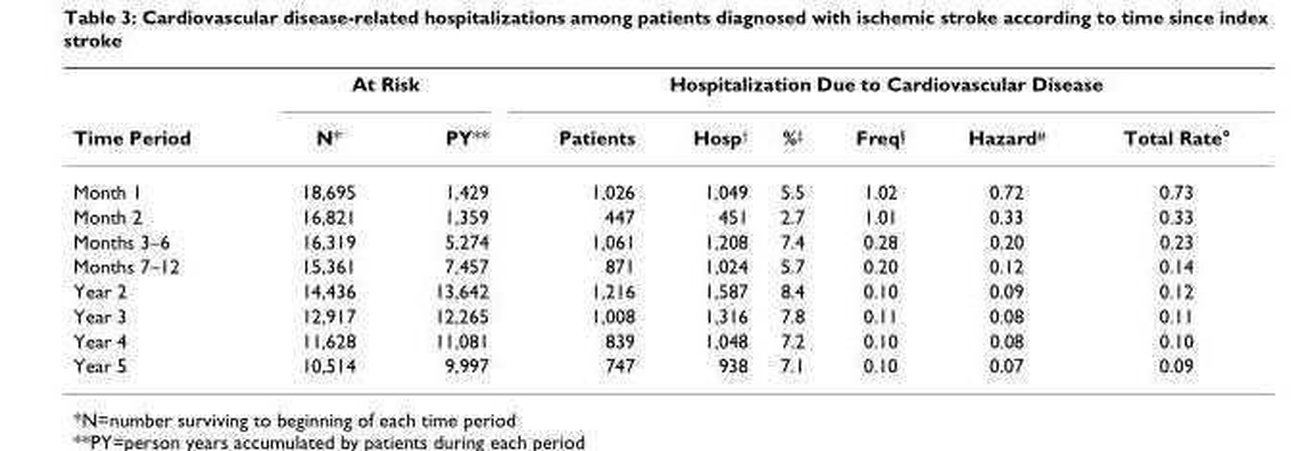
<table><thead><tr><td rowspan="2">Time Period</td><td colspan="2">At Risk</td><td colspan="6">Hospitalization Due to Cardiovascular Disease</td></tr><tr><td>N*</td><td>PY**</td><td>Patients</td><td>Hosp†</td><td>%‡</td><td>Freq§</td><td>Hazard#</td><td>Total Rate°</td></tr></thead><tbody><tr><td>Month 1</td><td>18,695</td><td>1,429</td><td>1,026</td><td>1,049</td><td>5.5</td><td>1.02</td><td>0.72</td><td>0.73</td></tr><tr><td>Month 2</td><td>16,821</td><td>1,359</td><td>447</td><td>451</td><td>2.7</td><td>1.01</td><td>0.33</td><td>0.33</td></tr><tr><td>Months 3–6</td><td>16,319</td><td>5,274</td><td>1,061</td><td>1,208</td><td>7.4</td><td>0.28</td><td>0.20</td><td>0.23</td></tr><tr><td>Months 7–12</td><td>15,361</td><td>7,457</td><td>871</td><td>1,024</td><td>5.7</td><td>0.20</td><td>0.12</td><td>0.14</td></tr><tr><td>Year 2</td><td>14,436</td><td>13,642</td><td>1,216</td><td>1,587</td><td>8.4</td><td>0.10</td><td>0.09</td><td>0.12</td></tr><tr><td>Year 3</td><td>12,917</td><td>12,265</td><td>1,008</td><td>1,316</td><td>7.8</td><td>0.11</td><td>0.08</td><td>0.11</td></tr><tr><td>Year 4</td><td>11,628</td><td>11,081</td><td>839</td><td>1,048</td><td>7.2</td><td>0.10</td><td>0.08</td><td>0.10</td></tr><tr><td>Year 5</td><td>10,514</td><td>9,997</td><td>747</td><td>938</td><td>7.1</td><td>0.10</td><td>0.07</td><td>0.09</td></tr></tbody></table>